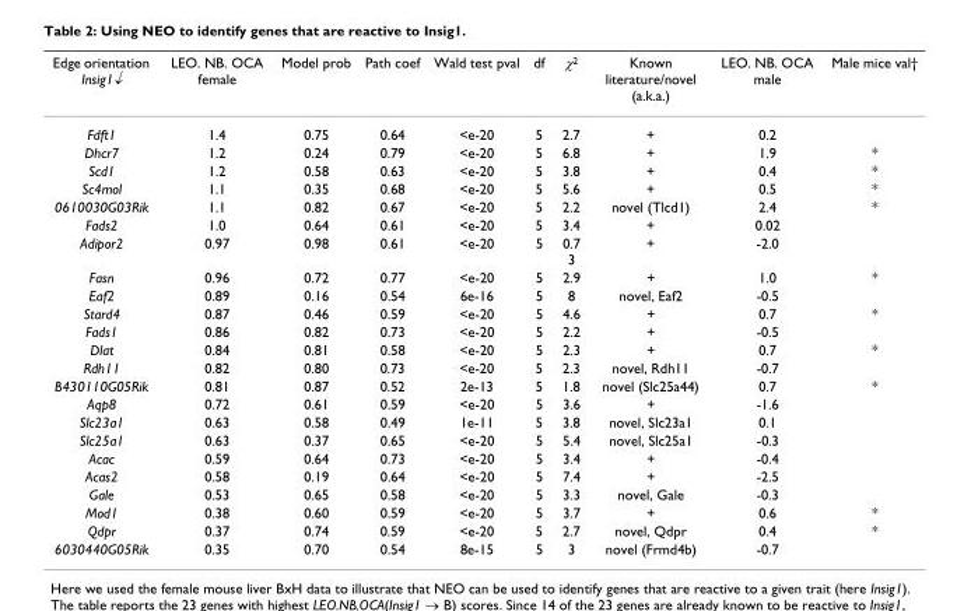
<table><thead><tr><td>Edge orientation Insig1↓</td><td>LEO. NB. OCA female</td><td>Model prob</td><td>Path coef</td><td>Wald test pval</td><td>df</td><td>χ<sup>2</sup></td><td>Known literature/novel (a.k.a.)</td><td>LEO. NB. OCA male</td><td>Male mice val†</td></tr></thead><tbody><tr><td>Fdft1</td><td>1.4</td><td>0.75</td><td>0.64</td><td>&lt;e-20</td><td>5</td><td>2.7</td><td>+</td><td>0.2</td><td></td></tr><tr><td>Dhcr7</td><td>1.2</td><td>0.24</td><td>0.79</td><td>&lt;e-20</td><td>5</td><td>6.8</td><td>+</td><td>1.9</td><td>*</td></tr><tr><td>Scd1</td><td>1.2</td><td>0.58</td><td>0.63</td><td>&lt;e-20</td><td>5</td><td>3.8</td><td>+</td><td>0.4</td><td>*</td></tr><tr><td>Sc4mol</td><td>1.1</td><td>0.35</td><td>0.68</td><td>&lt;e-20</td><td>5</td><td>5.6</td><td>+</td><td>0.5</td><td>*</td></tr><tr><td>0610030G03Rik</td><td>1.1</td><td>0.82</td><td>0.67</td><td>&lt;e-20</td><td>5</td><td>2.2</td><td>novel (Tlcd1)</td><td>2.4</td><td>*</td></tr><tr><td>Fads2</td><td>1.0</td><td>0.64</td><td>0.61</td><td>&lt;e-20</td><td>5</td><td>3.4</td><td>+</td><td>0.02</td><td></td></tr><tr><td>Adipor2</td><td>0.97</td><td>0.98</td><td>0.61</td><td>&lt;e-20</td><td>5</td><td>0.7 3</td><td>+</td><td>-2.0</td><td></td></tr><tr><td>Fasn</td><td>0.96</td><td>0.72</td><td>0.77</td><td>&lt;e-20</td><td>5</td><td>2.9</td><td>+</td><td>1.0</td><td>*</td></tr><tr><td>Eaf2</td><td>0.89</td><td>0.16</td><td>0.54</td><td>6e-16</td><td>5</td><td>8</td><td>novel, Eaf2</td><td>-0.5</td><td></td></tr><tr><td>Stard4</td><td>0.87</td><td>0.46</td><td>0.59</td><td>&lt;e-20</td><td>5</td><td>4.6</td><td>+</td><td>0.7</td><td>*</td></tr><tr><td>Fads1</td><td>0.86</td><td>0.82</td><td>0.73</td><td>&lt;e-20</td><td>5</td><td>2.2</td><td>+</td><td>-0.5</td><td></td></tr><tr><td>Dlat</td><td>0.84</td><td>0.81</td><td>0.58</td><td>&lt;e-20</td><td>5</td><td>2.3</td><td>+</td><td>0.7</td><td>*</td></tr><tr><td>Rdh11</td><td>0.82</td><td>0.80</td><td>0.73</td><td>&lt;e-20</td><td>5</td><td>2.3</td><td>novel, Rdh11</td><td>-0.7</td><td></td></tr><tr><td>B430110G05Rik</td><td>0.81</td><td>0.87</td><td>0.52</td><td>2e-13</td><td>5</td><td>1.8</td><td>novel (Slc25a44)</td><td>0.7</td><td>*</td></tr><tr><td>Aqp8</td><td>0.72</td><td>0.61</td><td>0.59</td><td>&lt;e-20</td><td>5</td><td>3.6</td><td>+</td><td>-1.6</td><td></td></tr><tr><td>Slc23a1</td><td>0.63</td><td>0.58</td><td>0.49</td><td>1e-11</td><td>5</td><td>3.8</td><td>novel, Slc23a1</td><td>0.1</td><td></td></tr><tr><td>Slc25a1</td><td>0.63</td><td>0.37</td><td>0.65</td><td>&lt;e-20</td><td>5</td><td>5.4</td><td>novel, Slc25a1</td><td>-0.3</td><td></td></tr><tr><td>Acac</td><td>0.59</td><td>0.64</td><td>0.73</td><td>&lt;e-20</td><td>5</td><td>3.4</td><td>+</td><td>-0.4</td><td></td></tr><tr><td>Acas2</td><td>0.58</td><td>0.19</td><td>0.64</td><td>&lt;e-20</td><td>5</td><td>7.4</td><td>+</td><td>-2.5</td><td></td></tr><tr><td>Gale</td><td>0.53</td><td>0.65</td><td>0.58</td><td>&lt;e-20</td><td>5</td><td>3.3</td><td>novel, Gale</td><td>-0.3</td><td></td></tr><tr><td>Mod1</td><td>0.38</td><td>0.60</td><td>0.59</td><td>&lt;e-20</td><td>5</td><td>3.7</td><td>+</td><td>0.6</td><td>*</td></tr><tr><td>Qdpr</td><td>0.37</td><td>0.74</td><td>0.59</td><td>&lt;e-20</td><td>5</td><td>2.7</td><td>novel, Qdpr</td><td>0.4</td><td>*</td></tr><tr><td>6030440G05Rik</td><td>0.35</td><td>0.70</td><td>0.54</td><td>8e-15</td><td>5</td><td>3</td><td>novel (Frmd4b)</td><td>-0.7</td><td></td></tr></tbody></table>